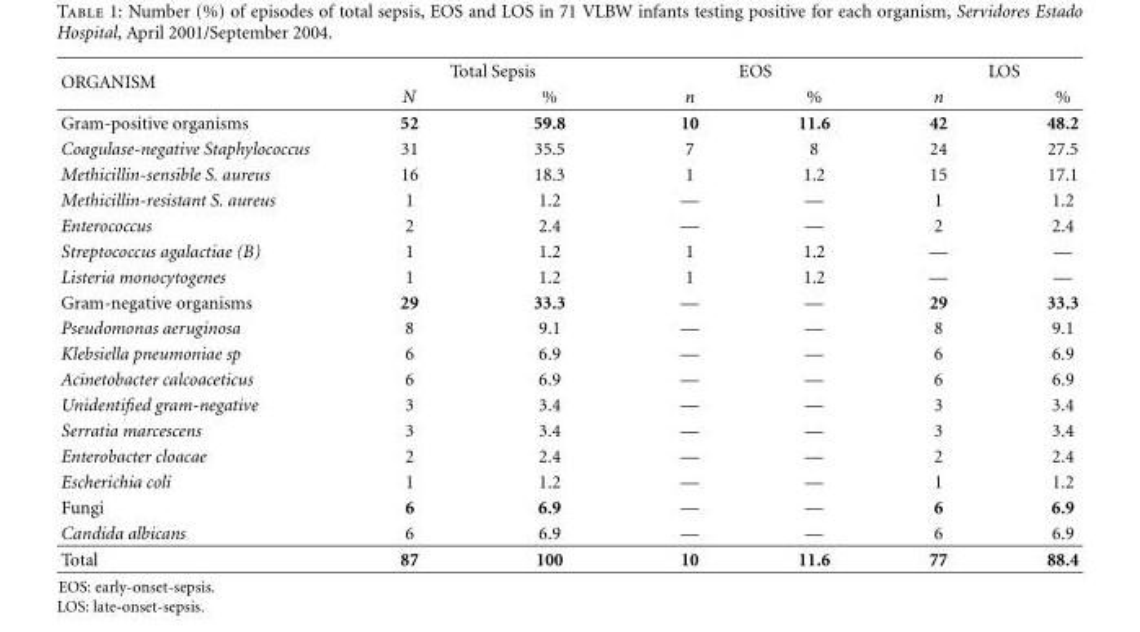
<table><thead><tr><td rowspan="2">ORGANISM</td><td colspan="2">Total Sepsis</td><td colspan="2">EOS</td><td colspan="2">LOS</td></tr><tr><td>N</td><td>%</td><td>n</td><td>%</td><td>n</td><td>%</td></tr></thead><tbody><tr><td>Gram-positive organisms</td><td>52</td><td>59.8</td><td>10</td><td>11.6</td><td>42</td><td>48.2</td></tr><tr><td>Coagulase-negative Staphylococcus</td><td>31</td><td>35.5</td><td>7</td><td>8</td><td>24</td><td>27.5</td></tr><tr><td>Methicillin-sensible S. aureus</td><td>16</td><td>18.3</td><td>1</td><td>1.2</td><td>15</td><td>17.1</td></tr><tr><td>Methicillin-resistant S. aureus</td><td>1</td><td>1.2</td><td>—</td><td>—</td><td>1</td><td>1.2</td></tr><tr><td>Enterococcus</td><td>2</td><td>2.4</td><td>—</td><td>—</td><td>2</td><td>2.4</td></tr><tr><td>Streptococcus agalactiae (B)</td><td>1</td><td>1.2</td><td>1</td><td>1.2</td><td>—</td><td>—</td></tr><tr><td>Listeria monocytogenes</td><td>1</td><td>1.2</td><td>1</td><td>1.2</td><td>—</td><td>—</td></tr><tr><td>Gram-negative organisms</td><td>29</td><td>33.3</td><td>—</td><td>—</td><td>29</td><td>33.3</td></tr><tr><td>Pseudomonas aeruginosa</td><td>8</td><td>9.1</td><td>—</td><td>—</td><td>8</td><td>9.1</td></tr><tr><td>Klebsiella pneumoniae sp</td><td>6</td><td>6.9</td><td>—</td><td>—</td><td>6</td><td>6.9</td></tr><tr><td>Acinetobacter calcoaceticus</td><td>6</td><td>6.9</td><td>—</td><td>—</td><td>6</td><td>6.9</td></tr><tr><td>Unidentified gram-negative</td><td>3</td><td>3.4</td><td>—</td><td>—</td><td>3</td><td>3.4</td></tr><tr><td>Serratia marcescens</td><td>3</td><td>3.4</td><td>—</td><td>—</td><td>3</td><td>3.4</td></tr><tr><td>Enterobacter cloacae</td><td>2</td><td>2.4</td><td>—</td><td>—</td><td>2</td><td>2.4</td></tr><tr><td>Escherichia coli</td><td>1</td><td>1.2</td><td>—</td><td>—</td><td>1</td><td>1.2</td></tr><tr><td>Fungi</td><td>6</td><td>6.9</td><td>—</td><td>—</td><td>6</td><td>6.9</td></tr><tr><td>Candida albicans</td><td>6</td><td>6.9</td><td>—</td><td>—</td><td>6</td><td>6.9</td></tr><tr><td>Total</td><td>87</td><td>100</td><td>10</td><td>11.6</td><td>77</td><td>88.4</td></tr></tbody></table>